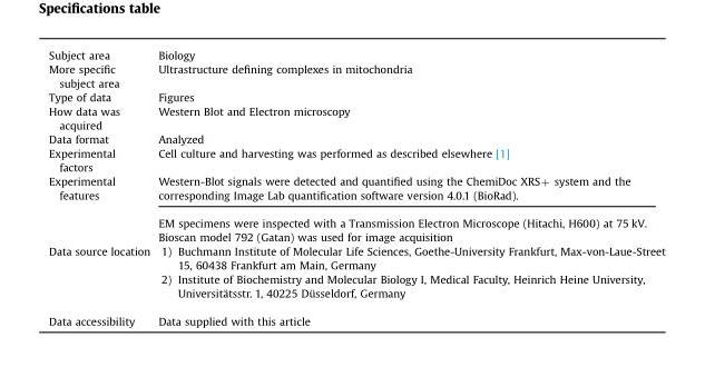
<table><tbody><tr><td>Subject area</td><td>Biology</td></tr><tr><td>More specific subject area</td><td>Ultrastructure defining complexes in mitochondria</td></tr><tr><td>Type of data</td><td>Figures</td></tr><tr><td>How data was acquired</td><td>Western Blot and Electron microscopy</td></tr><tr><td>Data format</td><td>Analyzed</td></tr><tr><td>Experimental factors</td><td>Cell culture and harvesting was performed as described elsewhere [1]</td></tr><tr><td rowspan="2">Experimental features</td><td>Western-Blot signals were detected and quantified using the ChemiDoc XRS+ system and the corresponding Image Lab quantification software version 4.0.1 (BioRad).</td></tr><tr><td>EM specimens were inspected with a Transmission Electron Microscope (Hitachi, H600) at 75 kV. Bioscan model 792 (Gatan) was used for image acquisition</td></tr><tr><td>Data source location</td><td>1) Buchmann Institute of Molecular Life Sciences, Goethe-University Frankfurt, Max-von-Laue-Street 15, 60438 Frankfurt am Main, Germany 2) Institute of Biochemistry and Molecular Biology I, Medical Faculty, Heinrich Heine University, Universitätsstr. 1, 40225 Düsseldorf, Germany</td></tr><tr><td>Data accessibility</td><td>Data supplied with this article</td></tr></tbody></table>